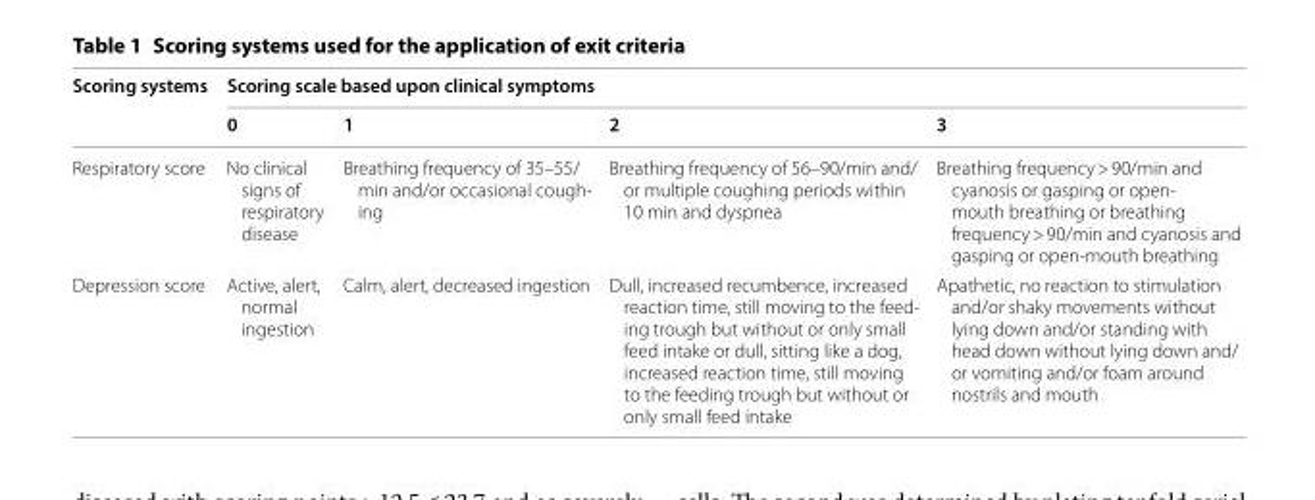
<table><thead><tr><td rowspan="2">Scoring systems</td><td colspan="4">Scoring scale based upon clinical symptoms</td></tr><tr><td>0</td><td>1</td><td>2</td><td>3</td></tr></thead><tbody><tr><td>Respiratory score</td><td>No clinical signs of respiratory disease</td><td>Breathing frequency of 35–55/ min and/or occasional cough‑ ing</td><td>Breathing frequency of 56–90/min and/ or multiple coughing periods within 10 min and dyspnea</td><td>Breathing frequency &gt; 90/min and cyanosis or gasping or open‑ mouth breathing or breathing frequency &gt; 90/min and cyanosis and gasping or open‑mouth breathing</td></tr><tr><td>Depression score</td><td>Active, alert, normal ingestion</td><td>Calm, alert, decreased ingestion</td><td>Dull, increased recumbence, increased reaction time, still moving to the feed‑ ing trough but without or only small feed intake or dull, sitting like a dog, increased reaction time, still moving to the feeding trough but without or only small feed intake</td><td>Apathetic, no reaction to stimulation and/or shaky movements without lying down and/or standing with head down without lying down and/ or vomiting and/or foam around nostrils and mouth</td></tr></tbody></table>